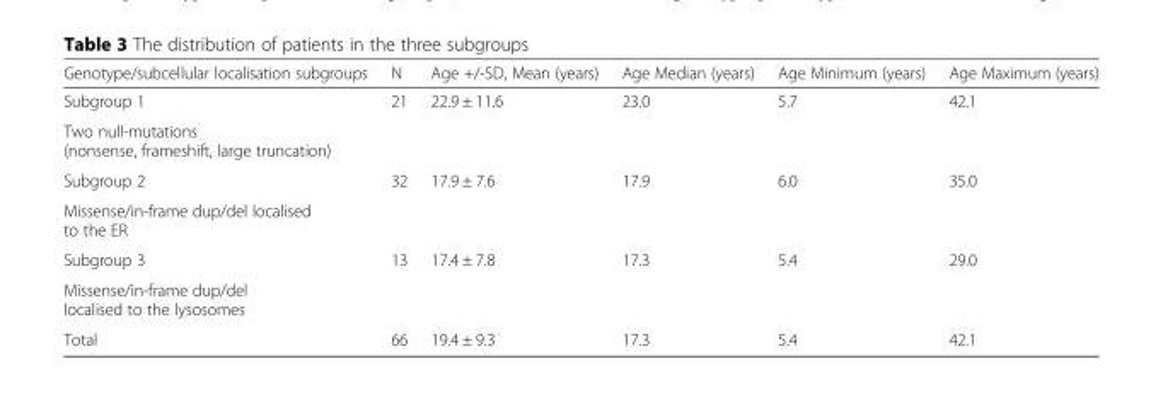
<table><thead><tr><td>Genotype/subcellular localisation subgroups</td><td>N</td><td>Age +/-SD, Mean (years)</td><td>Age Median (years)</td><td>Age Minimum (years)</td><td>Age Maximum (years)</td></tr></thead><tbody><tr><td>Subgroup 1</td><td rowspan="2">21</td><td rowspan="2">22.9 ± 11.6</td><td rowspan="2">23.0</td><td rowspan="2">5.7</td><td rowspan="2">42.1</td></tr><tr><td>Two null-mutations (nonsense, frameshift, large truncation)</td></tr><tr><td>Subgroup 2</td><td rowspan="2">32</td><td rowspan="2">17.9 ± 7.6</td><td rowspan="2">17.9</td><td rowspan="2">6.0</td><td rowspan="2">35.0</td></tr><tr><td>Missense/in-frame dup/del localised to the ER</td></tr><tr><td>Subgroup 3</td><td rowspan="2">13</td><td rowspan="2">17.4 ± 7.8</td><td rowspan="2">17.3</td><td rowspan="2">5.4</td><td rowspan="2">29.0</td></tr><tr><td>Missense/in-frame dup/del localised to the lysosomes</td></tr><tr><td>Total</td><td>66</td><td>19.4 ± 9.3</td><td>17.3</td><td>5.4</td><td>42.1</td></tr></tbody></table>